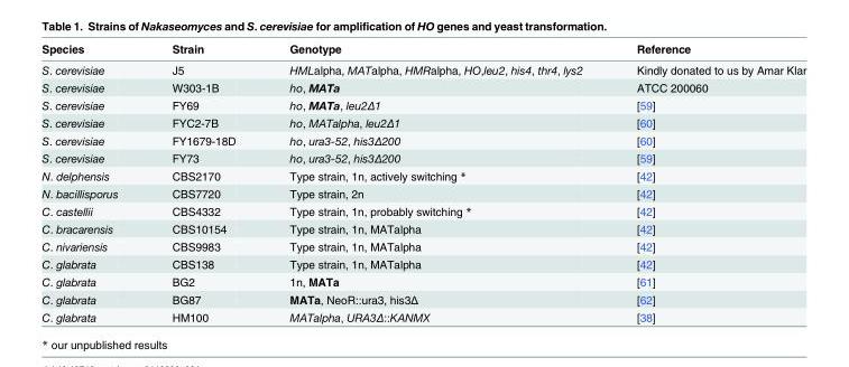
<table><thead><tr><td>Species</td><td>Strain</td><td>Genotype</td><td>Reference</td></tr></thead><tbody><tr><td>S. cerevisiae</td><td>J5</td><td>HMLalpha, MATalpha, HMRalpha, HO,leu2, his4, thr4, lys2</td><td>Kindly donated to us by Amar Klar</td></tr><tr><td>S. cerevisiae</td><td>W303-1B</td><td>ho, MATa</td><td>ATCC 200060</td></tr><tr><td>S. cerevisiae</td><td>FY69</td><td>ho, MATa, leu2Δ1</td><td>[59]</td></tr><tr><td>S. cerevisiae</td><td>FYC2-7B</td><td>ho, MATalpha, leu2Δ1</td><td>[60]</td></tr><tr><td>S. cerevisiae</td><td>FY1679-18D</td><td>ho, ura3-52, his3Δ200</td><td>[60]</td></tr><tr><td>S. cerevisiae</td><td>FY73</td><td>ho, ura3-52, his3Δ200</td><td>[59]</td></tr><tr><td>N. delphensis</td><td>CBS2170</td><td>Type strain, 1n, actively switching *</td><td>[42]</td></tr><tr><td>N. bacillisporus</td><td>CBS7720</td><td>Type strain, 2n</td><td>[42]</td></tr><tr><td>C. castellii</td><td>CBS4332</td><td>Type strain, 1n, probably switching *</td><td>[42]</td></tr><tr><td>C. bracarensis</td><td>CBS10154</td><td>Type strain, 1n, MATalpha</td><td>[42]</td></tr><tr><td>C. nivariensis</td><td>CBS9983</td><td>Type strain, 1n, MATalpha</td><td>[42]</td></tr><tr><td>C. glabrata</td><td>CBS138</td><td>Type strain, 1n, MATalpha</td><td>[42]</td></tr><tr><td>C. glabrata</td><td>BG2</td><td>1n, MATa</td><td>[61]</td></tr><tr><td>C. glabrata</td><td>BG87</td><td>MATa, NeoR::ura3, his3Δ</td><td>[62]</td></tr><tr><td>C. glabrata</td><td>HM100</td><td>MATalpha, URA3Δ::KANMX</td><td>[38]</td></tr></tbody></table>